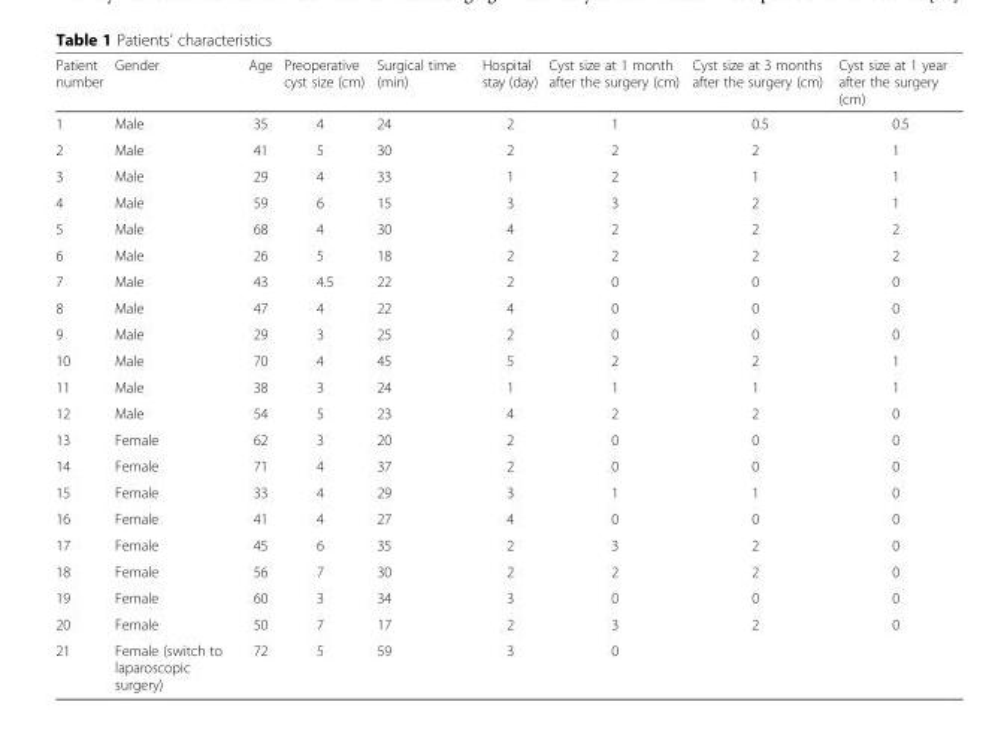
<table><thead><tr><td>Patient number</td><td>Gender</td><td>Age</td><td>Preoperative cyst size (cm)</td><td>Surgical time (min)</td><td>Hospital stay (day)</td><td>Cyst size at 1 month after the surgery (cm)</td><td>Cyst size at 3 months after the surgery (cm)</td><td>Cyst size at 1 year after the surgery (cm)</td></tr></thead><tbody><tr><td>1</td><td>Male</td><td>35</td><td>4</td><td>24</td><td>2</td><td>1</td><td>0.5</td><td>0.5</td></tr><tr><td>2</td><td>Male</td><td>41</td><td>5</td><td>30</td><td>2</td><td>2</td><td>2</td><td>1</td></tr><tr><td>3</td><td>Male</td><td>29</td><td>4</td><td>33</td><td>1</td><td>2</td><td>1</td><td>1</td></tr><tr><td>4</td><td>Male</td><td>59</td><td>6</td><td>15</td><td>3</td><td>3</td><td>2</td><td>1</td></tr><tr><td>5</td><td>Male</td><td>68</td><td>4</td><td>30</td><td>4</td><td>2</td><td>2</td><td>2</td></tr><tr><td>6</td><td>Male</td><td>26</td><td>5</td><td>18</td><td>2</td><td>2</td><td>2</td><td>2</td></tr><tr><td>7</td><td>Male</td><td>43</td><td>4.5</td><td>22</td><td>2</td><td>0</td><td>0</td><td>0</td></tr><tr><td>8</td><td>Male</td><td>47</td><td>4</td><td>22</td><td>4</td><td>0</td><td>0</td><td>0</td></tr><tr><td>9</td><td>Male</td><td>29</td><td>3</td><td>25</td><td>2</td><td>0</td><td>0</td><td>0</td></tr><tr><td>10</td><td>Male</td><td>70</td><td>4</td><td>45</td><td>5</td><td>2</td><td>2</td><td>1</td></tr><tr><td>11</td><td>Male</td><td>38</td><td>3</td><td>24</td><td>1</td><td>1</td><td>1</td><td>1</td></tr><tr><td>12</td><td>Male</td><td>54</td><td>5</td><td>23</td><td>4</td><td>2</td><td>2</td><td>0</td></tr><tr><td>13</td><td>Female</td><td>62</td><td>3</td><td>20</td><td>2</td><td>0</td><td>0</td><td>0</td></tr><tr><td>14</td><td>Female</td><td>71</td><td>4</td><td>37</td><td>2</td><td>0</td><td>0</td><td>0</td></tr><tr><td>15</td><td>Female</td><td>33</td><td>4</td><td>29</td><td>3</td><td>1</td><td>1</td><td>0</td></tr><tr><td>16</td><td>Female</td><td>41</td><td>4</td><td>27</td><td>4</td><td>0</td><td>0</td><td>0</td></tr><tr><td>17</td><td>Female</td><td>45</td><td>6</td><td>35</td><td>2</td><td>3</td><td>2</td><td>0</td></tr><tr><td>18</td><td>Female</td><td>56</td><td>7</td><td>30</td><td>2</td><td>2</td><td>2</td><td>0</td></tr><tr><td>19</td><td>Female</td><td>60</td><td>3</td><td>34</td><td>3</td><td>0</td><td>0</td><td>0</td></tr><tr><td>20</td><td>Female</td><td>50</td><td>7</td><td>17</td><td>2</td><td>3</td><td>2</td><td>0</td></tr><tr><td>21</td><td>Female (switch to laparoscopic surgery)</td><td>72</td><td>5</td><td>59</td><td>3</td><td>0</td><td></td><td></td></tr></tbody></table>